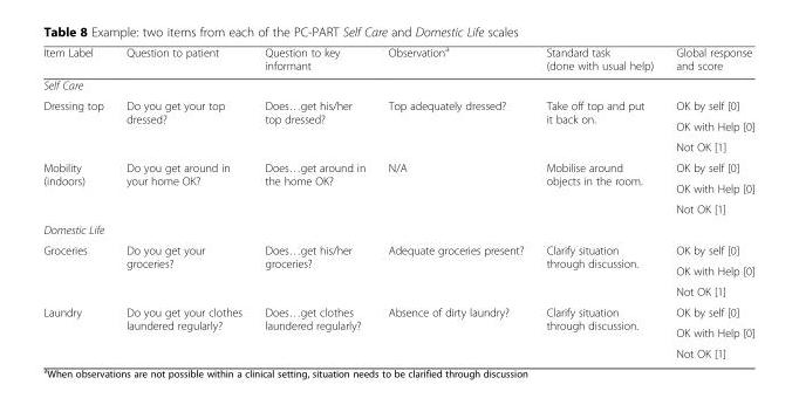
<table><thead><tr><td>Item Label</td><td>Question to patient</td><td>Question to key informant</td><td>Observation<sup>a</sup></td><td>Standard task (done with usual help)</td><td>Global response and score</td></tr></thead><tbody><tr><td colspan="6">Self Care</td></tr><tr><td rowspan="3">Dressing top</td><td rowspan="3">Do you get your top dressed?</td><td rowspan="3">Does…get his/her top dressed?</td><td rowspan="3">Top adequately dressed?</td><td rowspan="3">Take off top and put it back on.</td><td>OK by self [0]</td></tr><tr><td>OK with Help [0]</td></tr><tr><td>Not OK [1]</td></tr><tr><td rowspan="3">Mobility (indoors)</td><td rowspan="3">Do you get around in your home OK?</td><td rowspan="3">Does…get around in the home OK?</td><td rowspan="3">N/A</td><td rowspan="3">Mobilise around objects in the room.</td><td>OK by self [0]</td></tr><tr><td>OK with Help [0]</td></tr><tr><td>Not OK [1]</td></tr><tr><td colspan="6">Domestic Life</td></tr><tr><td rowspan="3">Groceries</td><td rowspan="3">Do you get your groceries?</td><td rowspan="3">Does…get his/her groceries?</td><td rowspan="3">Adequate groceries present?</td><td rowspan="3">Clarify situation through discussion.</td><td>OK by self [0]</td></tr><tr><td>OK with Help [0]</td></tr><tr><td>Not OK [1]</td></tr><tr><td rowspan="3">Laundry</td><td rowspan="3">Do you get your clothes laundered regularly?</td><td rowspan="3">Does…get clothes laundered regularly?</td><td rowspan="3">Absence of dirty laundry?</td><td rowspan="3">Clarify situation through discussion.</td><td>OK by self [0]</td></tr><tr><td>OK with Help [0]</td></tr><tr><td>Not OK [1]</td></tr></tbody></table>